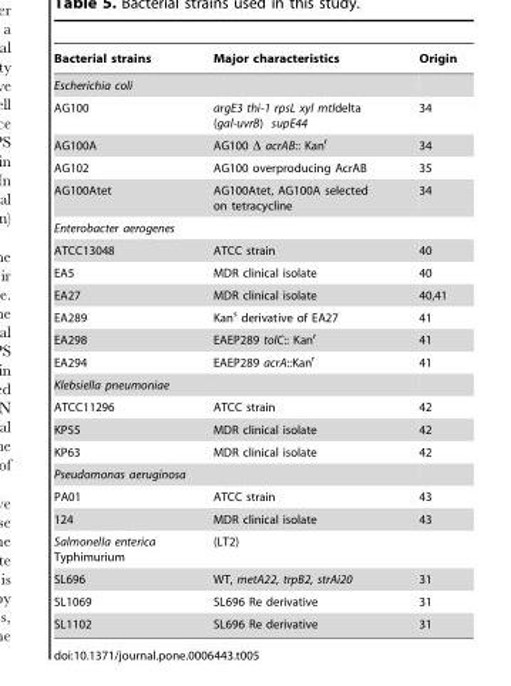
<table><thead><tr><td>Bacterial strains</td><td>Major characteristics</td><td>Origin</td></tr></thead><tbody><tr><td colspan="3">Escherichia coli</td></tr><tr><td>AG100</td><td>argE3 thi-1 rpsL xyl mtldelta (gal-uvrB) supE44</td><td>34</td></tr><tr><td>AG100A</td><td>AG100 Δ acrAB:: Kan<sup>r</sup></td><td>34</td></tr><tr><td>AG102</td><td>AG100 overproducing AcrAB</td><td>35</td></tr><tr><td>AG100Atet</td><td>AG100Atet, AG100A selected on tetracycline</td><td>34</td></tr><tr><td colspan="3">Enterobacter aerogenes</td></tr><tr><td>ATCC13048</td><td>ATCC strain</td><td>40</td></tr><tr><td>EA5</td><td>MDR clinical isolate</td><td>40</td></tr><tr><td>EA27</td><td>MDR clinical isolate</td><td>40,41</td></tr><tr><td>EA289</td><td>Kan<sup>s</sup> derivative of EA27</td><td>41</td></tr><tr><td>EA298</td><td>EAEP289 tolC:: Kan<sup>r</sup></td><td>41</td></tr><tr><td>EA294</td><td>EAEP289 acrA::Kan<sup>r</sup></td><td>41</td></tr><tr><td colspan="3">Klebsiella pneumoniae</td></tr><tr><td>ATCC11296</td><td>ATCC strain</td><td>42</td></tr><tr><td>KP55</td><td>MDR clinical isolate</td><td>42</td></tr><tr><td>KP63</td><td>MDR clinical isolate</td><td>42</td></tr><tr><td colspan="3">Pseudomonas aeruginosa</td></tr><tr><td>PA01</td><td>ATCC strain</td><td>43</td></tr><tr><td>124</td><td>MDR clinical isolate</td><td>43</td></tr><tr><td>Salmonella enterica Typhimurium</td><td>(LT2)</td><td></td></tr><tr><td>SL696</td><td>WT, metA22, trpB2, strAi20</td><td>31</td></tr><tr><td>SL1069</td><td>SL696 Re derivative</td><td>31</td></tr><tr><td>SL1102</td><td>SL696 Re derivative</td><td>31</td></tr></tbody></table>